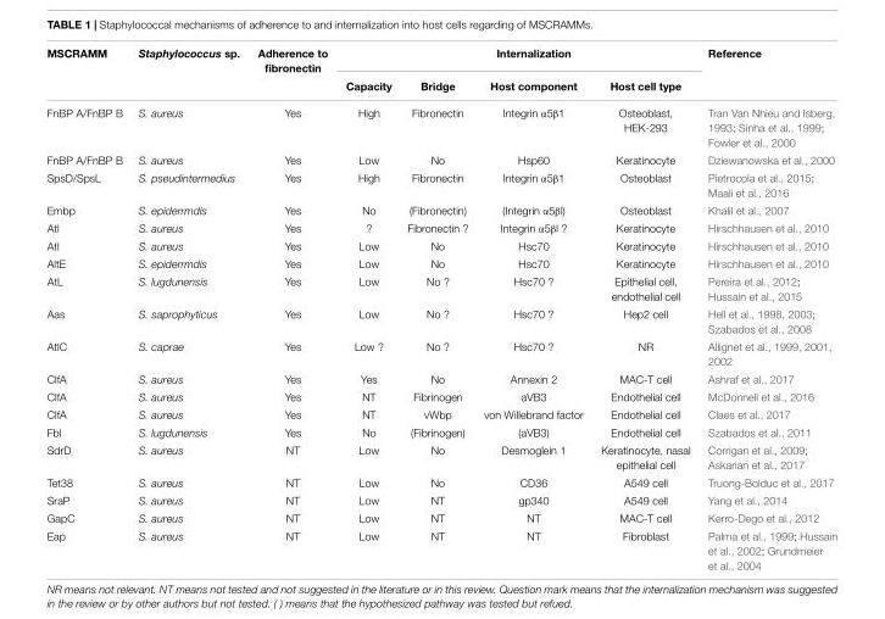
<table><thead><tr><td rowspan="2">MSCRAMM</td><td rowspan="2">Staphylococcus sp.</td><td rowspan="2">Adherence to fibronectin</td><td colspan="4">Internalization</td><td rowspan="2">Reference</td></tr><tr><td>Capacity</td><td>Bridge</td><td>Host component</td><td>Host cell type</td></tr></thead><tbody><tr><td>FnBP A/FnBP B</td><td>S. aureus</td><td>Yes</td><td>High</td><td>Fibronectin</td><td>Integrin α5β1</td><td>Osteoblast, HEK-293</td><td>Tran Van Nhieu and Isberg, 1993; Sinha et al., 1999; Fowler et al., 2000</td></tr><tr><td>FnBP A/FnBP B</td><td>S. aureus</td><td>Yes</td><td>Low</td><td>No</td><td>Hsp60</td><td>Keratinocyte</td><td>Dziewanowska et al., 2000</td></tr><tr><td>SpsD/SpsL</td><td>S. pseudintermedius</td><td>Yes</td><td>High</td><td>Fibronectin</td><td>Integrin α5β1</td><td>Osteoblast</td><td>Pietrocola et al., 2015; Maali et al., 2016</td></tr><tr><td>Embp</td><td>S. epiderrmdis</td><td>Yes</td><td>No</td><td>(Fibronectin)</td><td>(Integrin α5βl)</td><td>Osteoblast</td><td>Khalil et al., 2007</td></tr><tr><td>Atl</td><td>S. aureus</td><td>Yes</td><td>?</td><td>Fibronectin ?</td><td>Integrin α5βl ?</td><td>Keratinocyte</td><td>Hirschhausen et al., 2010</td></tr><tr><td>Atl</td><td>S. aureus</td><td>Yes</td><td>Low</td><td>No</td><td>Hsc70</td><td>Keratinocyte</td><td>Hirschhausen et al., 2010</td></tr><tr><td>AltE</td><td>S. epiderrmdis</td><td>Yes</td><td>Low</td><td>No</td><td>Hsc70</td><td>Keratinocyte</td><td>Hirschhausen et al., 2010</td></tr><tr><td>AtL</td><td>S. lugdunensis</td><td>Yes</td><td>Low</td><td>No ?</td><td>Hsc70 ?</td><td>Epithelial cell, endothelial cell</td><td>Pereira et al., 2012; Hussain et al., 2015</td></tr><tr><td>Aas</td><td>S. saprophyticus</td><td>Yes</td><td>Low</td><td>No ?</td><td>Hsc70 ?</td><td>Hep2 cell</td><td>Hell et al., 1998, 2003; Szabados et al., 2008</td></tr><tr><td>AtlC</td><td>S. caprae</td><td>Yes</td><td>Low ?</td><td>No ?</td><td>Hsc70 ?</td><td>NR</td><td>Allignet et al., 1999, 2001, 2002</td></tr><tr><td>ClfA</td><td>S. aureus</td><td>Yes</td><td>Yes</td><td>No</td><td>Annexin 2</td><td>MAC-T cell</td><td>Ashraf et al., 2017</td></tr><tr><td>ClfA</td><td>S. aureus</td><td>Yes</td><td>NT</td><td>Fibrinogen</td><td>aVB3</td><td>Endothelial cell</td><td>McDonnell et al., 2016</td></tr><tr><td>ClfA</td><td>S. aureus</td><td>Yes</td><td>NT</td><td>vWbp</td><td>von Willebrand factor</td><td>Endothelial cell</td><td>Claes et al., 2017</td></tr><tr><td>Fbl</td><td>S. lugdunensis</td><td>Yes</td><td>No</td><td>(Fibrinogen)</td><td>(aVB3)</td><td>Endothelial cell</td><td>Szabados et al., 2011</td></tr><tr><td>SdrD</td><td>S. aureus</td><td>NT</td><td>Low</td><td>No</td><td>Desmoglein 1</td><td>Keratinocyte, nasal epithelial cell</td><td>Corrigan et al., 2009; Askarian et al., 2017</td></tr><tr><td>Tet38</td><td>S. aureus</td><td>NT</td><td>Low</td><td>No</td><td>CD36</td><td>A549 cell</td><td>Truong-Bolduc et al., 2017</td></tr><tr><td>SraP</td><td>S. aureus</td><td>NT</td><td>Low</td><td>NT</td><td>gp340</td><td>A549 cell</td><td>Yang et al., 2014</td></tr><tr><td>GapC</td><td>S. aureus</td><td>NT</td><td>Low</td><td>NT</td><td>NT</td><td>MAC-T cell</td><td>Kerro-Dego et al., 2012</td></tr><tr><td>Eap</td><td>S. aureus</td><td>NT</td><td>Low</td><td>NT</td><td>NT</td><td>Fibroblast</td><td>Palma et al., 1999; Hussain et al., 2002; Grundmeier et al., 2004</td></tr></tbody></table>